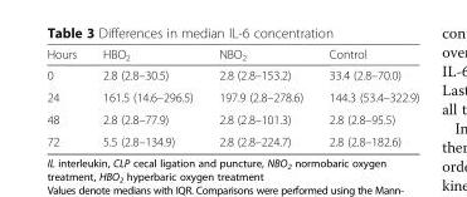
<table><thead><tr><td>Hours</td><td>HBO<sub>2</sub></td><td>NBO<sub>2</sub></td><td>Control</td></tr></thead><tbody><tr><td>0</td><td>2.8 (2.8–30.5)</td><td>2.8 (2.8–153.2)</td><td>33.4 (2.8–70.0)</td></tr><tr><td>24</td><td>161.5 (14.6–296.5)</td><td>197.9 (2.8–278.6)</td><td>144.3 (53.4–322.9)</td></tr><tr><td>48</td><td>2.8 (2.8–77.9)</td><td>2.8 (2.8–101.3)</td><td>2.8 (2.8–95.5)</td></tr><tr><td>72</td><td>5.5 (2.8–134.9)</td><td>2.8 (2.8–224.7)</td><td>2.8 (2.8–182.6)</td></tr></tbody></table>